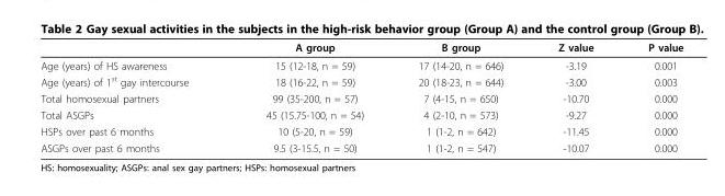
<table><thead><tr><td></td><td>A group</td><td>B group</td><td>Z value</td><td>P value</td></tr></thead><tbody><tr><td>Age (years) of HS awareness</td><td>15 (12-18, n = 59)</td><td>17 (14-20, n = 646)</td><td>-3.19</td><td>0.001</td></tr><tr><td>Age (years) of 1<sup>st</sup> gay intercourse</td><td>18 (16-22, n = 59)</td><td>20 (18-23, n = 644)</td><td>-3.00</td><td>0.003</td></tr><tr><td>Total homosexual partners</td><td>99 (35-200, n = 57)</td><td>7 (4-15, n = 650)</td><td>-10.70</td><td>0.000</td></tr><tr><td>Total ASGPs</td><td>45 (15.75-100, n = 54)</td><td>4 (2-10, n = 573)</td><td>-9.27</td><td>0.000</td></tr><tr><td>HSPs over past 6 months</td><td>10 (5-20, n = 59)</td><td>1 (1-2, n = 642)</td><td>-11.45</td><td>0.000</td></tr><tr><td>ASGPs over past 6 months</td><td>9.5 (3-15.5, n = 50)</td><td>1 (1-2, n = 547)</td><td>-10.07</td><td>0.000</td></tr></tbody></table>